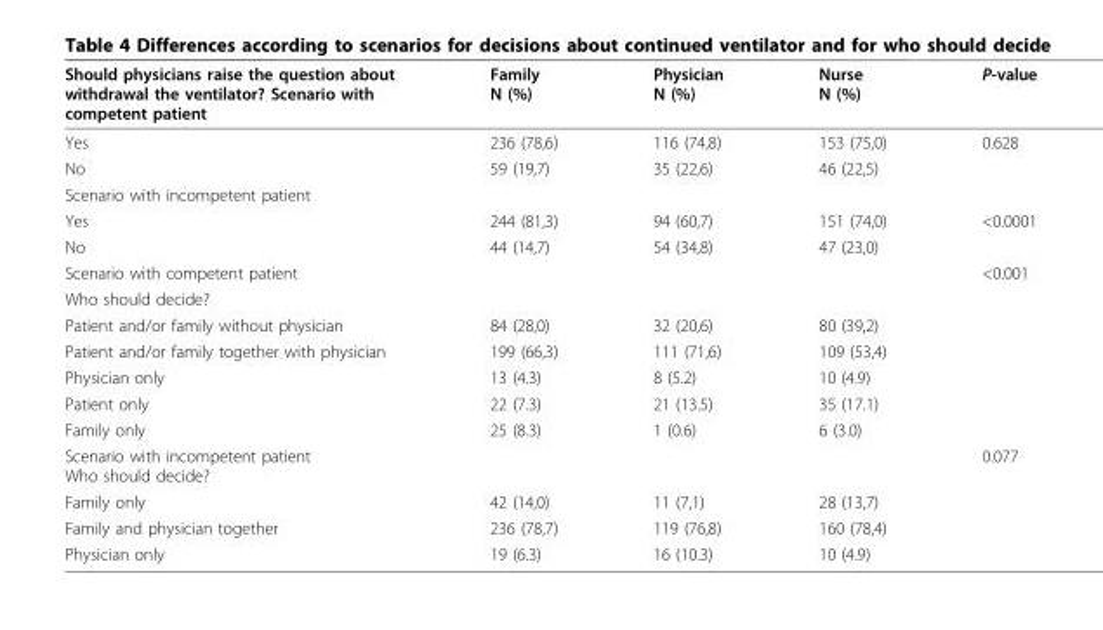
<table><thead><tr><td>Should physicians raise the question about withdrawal the ventilator? Scenario with competent patient</td><td>Family N (%)</td><td>Physician N (%)</td><td>Nurse N (%)</td><td>P-value</td></tr></thead><tbody><tr><td>Yes</td><td>236 (78,6)</td><td>116 (74,8)</td><td>153 (75,0)</td><td>0.628</td></tr><tr><td>No</td><td>59 (19,7)</td><td>35 (22,6)</td><td>46 (22,5)</td><td></td></tr><tr><td colspan="5">Scenario with incompetent patient</td></tr><tr><td>Yes</td><td>244 (81,3)</td><td>94 (60,7)</td><td>151 (74,0)</td><td>&lt;0.0001</td></tr><tr><td>No</td><td>44 (14,7)</td><td>54 (34,8)</td><td>47 (23,0)</td><td></td></tr><tr><td>Scenario with competent patient</td><td></td><td></td><td></td><td>&lt;0.001</td></tr><tr><td colspan="5">Who should decide?</td></tr><tr><td>Patient and/or family without physician</td><td>84 (28,0)</td><td>32 (20,6)</td><td>80 (39,2)</td><td></td></tr><tr><td>Patient and/or family together with physician</td><td>199 (66,3)</td><td>111 (71,6)</td><td>109 (53,4)</td><td></td></tr><tr><td>Physician only</td><td>13 (4.3)</td><td>8 (5.2)</td><td>10 (4.9)</td><td></td></tr><tr><td>Patient only</td><td>22 (7.3)</td><td>21 (13.5)</td><td>35 (17.1)</td><td></td></tr><tr><td>Family only</td><td>25 (8.3)</td><td>1 (0.6)</td><td>6 (3.0)</td><td></td></tr><tr><td>Scenario with incompetent patient Who should decide?</td><td></td><td></td><td></td><td>0.077</td></tr><tr><td>Family only</td><td>42 (14,0)</td><td>11 (7,1)</td><td>28 (13,7)</td><td></td></tr><tr><td>Family and physician together</td><td>236 (78,7)</td><td>119 (76,8)</td><td>160 (78,4)</td><td></td></tr><tr><td>Physician only</td><td>19 (6.3)</td><td>16 (10.3)</td><td>10 (4.9)</td><td></td></tr></tbody></table>